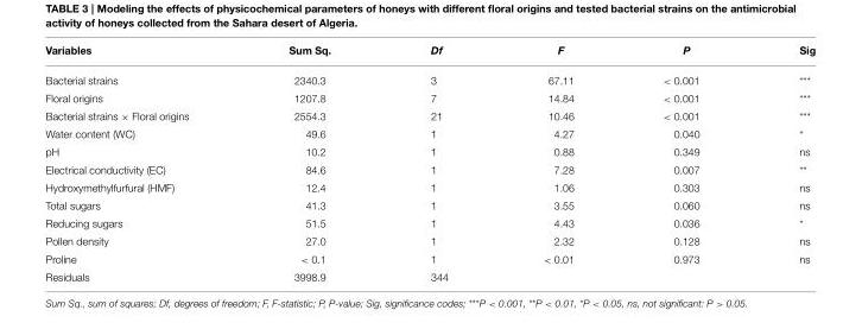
<table><thead><tr><td>Variables</td><td>Sum Sq.</td><td>Df</td><td>F</td><td>P</td><td>Sig</td></tr></thead><tbody><tr><td>Bacterial strains</td><td>2340.3</td><td>3</td><td>67.11</td><td>&lt; 0.001</td><td>***</td></tr><tr><td>Floral origins</td><td>1207.8</td><td>7</td><td>14.84</td><td>&lt; 0.001</td><td>***</td></tr><tr><td>Bacterial strains × Floral origins</td><td>2554.3</td><td>21</td><td>10.46</td><td>&lt; 0.001</td><td>***</td></tr><tr><td>Water content (WC)</td><td>49.6</td><td>1</td><td>4.27</td><td>0.040</td><td>*</td></tr><tr><td>pH</td><td>10.2</td><td>1</td><td>0.88</td><td>0.349</td><td>ns</td></tr><tr><td>Electrical conductivity (EC)</td><td>84.6</td><td>1</td><td>7.28</td><td>0.007</td><td>**</td></tr><tr><td>Hydroxymethylfurfural (HMF)</td><td>12.4</td><td>1</td><td>1.06</td><td>0.303</td><td>ns</td></tr><tr><td>Total sugars</td><td>41.3</td><td>1</td><td>3.55</td><td>0.060</td><td>ns</td></tr><tr><td>Reducing sugars</td><td>51.5</td><td>1</td><td>4.43</td><td>0.036</td><td>*</td></tr><tr><td>Pollen density</td><td>27.0</td><td>1</td><td>2.32</td><td>0.128</td><td>ns</td></tr><tr><td>Proline</td><td>&lt; 0.1</td><td>1</td><td>&lt; 0.01</td><td>0.973</td><td>ns</td></tr><tr><td>Residuals</td><td>3998.9</td><td>344</td><td></td><td></td><td></td></tr></tbody></table>